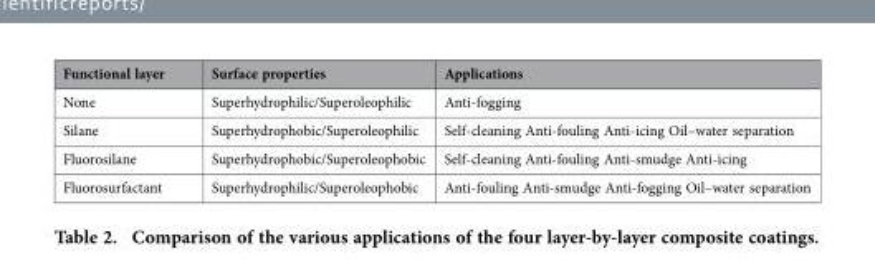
<table><thead><tr><td>Functional layer</td><td>Surface properties</td><td>Applications</td></tr></thead><tbody><tr><td>None</td><td>Superhydrophilic/Superoleophilic</td><td>Anti-fogging</td></tr><tr><td>Silane</td><td>Superhydrophobic/Superoleophilic</td><td>Self-cleaning Anti-fouling Anti-icing Oil–water separation</td></tr><tr><td>Fluorosilane</td><td>Superhydrophobic/Superoleophobic</td><td>Self-cleaning Anti-fouling Anti-smudge Anti-icing</td></tr><tr><td>Fluorosurfactant</td><td>Superhydrophilic/Superoleophobic</td><td>Anti-fouling Anti-smudge Anti-fogging Oil–water separation</td></tr></tbody></table>